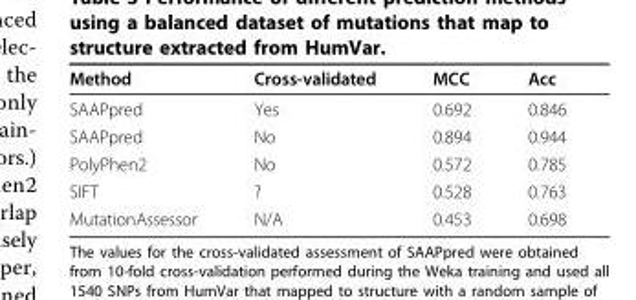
<table><thead><tr><td>Method</td><td>Cross-validated</td><td>MCC</td><td>Acc</td></tr></thead><tbody><tr><td>SAAPpred</td><td>Yes</td><td>0.692</td><td>0.846</td></tr><tr><td>SAAPpred</td><td>No</td><td>0.894</td><td>0.944</td></tr><tr><td>PolyPhen2</td><td>No</td><td>0.572</td><td>0.785</td></tr><tr><td>SIFT</td><td>?</td><td>0.528</td><td>0.763</td></tr><tr><td>MutationAssessor</td><td>N/A</td><td>0.453</td><td>0.698</td></tr></tbody></table>